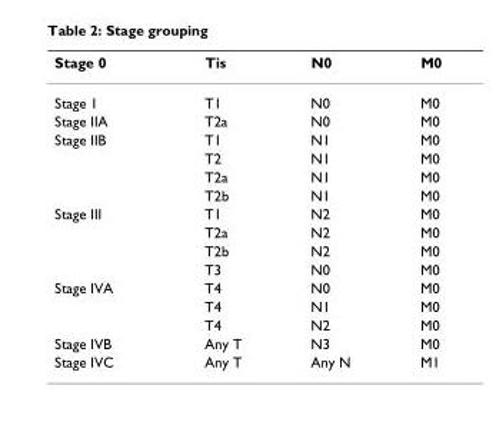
<table><thead><tr><td>Stage 0</td><td>Tis</td><td>N0</td><td>M0</td></tr></thead><tbody><tr><td>Stage 1</td><td>T1</td><td>N0</td><td>M0</td></tr><tr><td>Stage IIA</td><td>T2a</td><td>N0</td><td>M0</td></tr><tr><td rowspan="4">Stage IIB</td><td>T1</td><td>N1</td><td>M0</td></tr><tr><td>T2</td><td>N1</td><td>M0</td></tr><tr><td>T2a</td><td>N1</td><td>M0</td></tr><tr><td>T2b</td><td>N1</td><td>M0</td></tr><tr><td rowspan="4">Stage III</td><td>T1</td><td>N2</td><td>M0</td></tr><tr><td>T2a</td><td>N2</td><td>M0</td></tr><tr><td>T2b</td><td>N2</td><td>M0</td></tr><tr><td>T3</td><td>N0</td><td>M0</td></tr><tr><td rowspan="3">Stage IVA</td><td>T4</td><td>N0</td><td>M0</td></tr><tr><td>T4</td><td>N1</td><td>M0</td></tr><tr><td>T4</td><td>N2</td><td>M0</td></tr><tr><td>Stage IVB</td><td>Any T</td><td>N3</td><td>M0</td></tr><tr><td>Stage IVC</td><td>Any T</td><td>Any N</td><td>M1</td></tr></tbody></table>